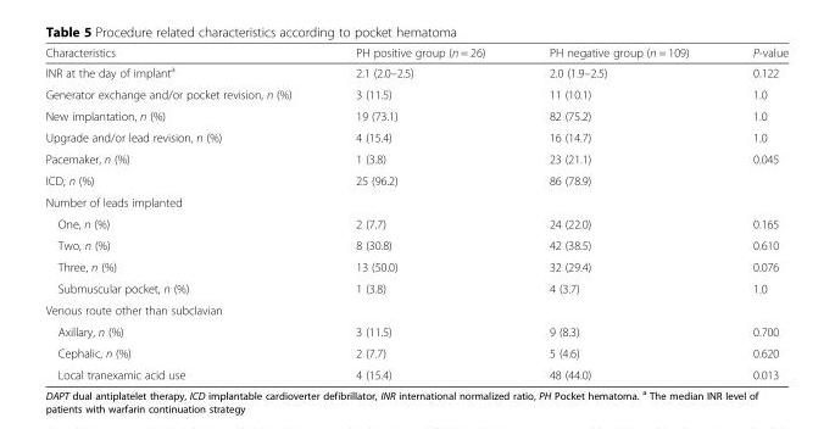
<table><thead><tr><td>Characteristics</td><td>PH positive group (n = 26)</td><td>PH negative group (n = 109)</td><td>P-value</td></tr></thead><tbody><tr><td>INR at the day of implant<sup>a</sup></td><td>2.1 (2.0–2.5)</td><td>2.0 (1.9–2.5)</td><td>0.122</td></tr><tr><td>Generator exchange and/or pocket revision, n (%)</td><td>3 (11.5)</td><td>11 (10.1)</td><td>1.0</td></tr><tr><td>New implantation, n (%)</td><td>19 (73.1)</td><td>82 (75.2)</td><td>1.0</td></tr><tr><td>Upgrade and/or lead revision, n (%)</td><td>4 (15.4)</td><td>16 (14.7)</td><td>1.0</td></tr><tr><td>Pacemaker, n (%)</td><td>1 (3.8)</td><td>23 (21.1)</td><td>0.045</td></tr><tr><td>ICD, n (%)</td><td>25 (96.2)</td><td>86 (78.9)</td><td></td></tr><tr><td colspan="4">Number of leads implanted</td></tr><tr><td>One, n (%)</td><td>2 (7.7)</td><td>24 (22.0)</td><td>0.165</td></tr><tr><td>Two, n (%)</td><td>8 (30.8)</td><td>42 (38.5)</td><td>0.610</td></tr><tr><td>Three, n (%)</td><td>13 (50.0)</td><td>32 (29.4)</td><td>0.076</td></tr><tr><td>Submuscular pocket, n (%)</td><td>1 (3.8)</td><td>4 (3.7)</td><td>1.0</td></tr><tr><td colspan="4">Venous route other than subclavian</td></tr><tr><td>Axillary, n (%)</td><td>3 (11.5)</td><td>9 (8.3)</td><td>0.700</td></tr><tr><td>Cephalic, n (%)</td><td>2 (7.7)</td><td>5 (4.6)</td><td>0.620</td></tr><tr><td>Local tranexamic acid use</td><td>4 (15.4)</td><td>48 (44.0)</td><td>0.013</td></tr></tbody></table>